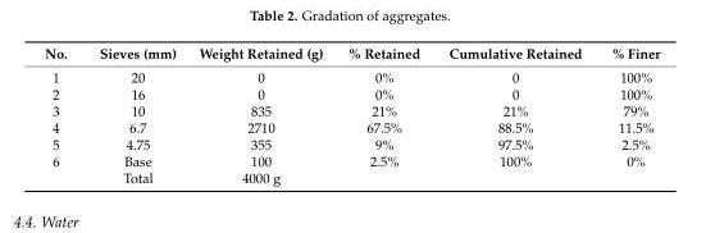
<table><thead><tr><td>No.</td><td>Sieves (mm)</td><td>Weight Retained (g)</td><td>% Retained</td><td>Cumulative Retained</td><td>% Finer</td></tr></thead><tbody><tr><td>1</td><td>20</td><td>0</td><td>0%</td><td>0</td><td>100%</td></tr><tr><td>2</td><td>16</td><td>0</td><td>0%</td><td>0</td><td>100%</td></tr><tr><td>3</td><td>10</td><td>835</td><td>21%</td><td>21%</td><td>79%</td></tr><tr><td>4</td><td>6.7</td><td>2710</td><td>67.5%</td><td>88.5%</td><td>11.5%</td></tr><tr><td>5</td><td>4.75</td><td>355</td><td>9%</td><td>97.5%</td><td>2.5%</td></tr><tr><td rowspan="2">6</td><td>Base</td><td>100</td><td>2.5%</td><td>100%</td><td>0%</td></tr><tr><td>Total</td><td>4000 g</td><td></td><td></td><td></td></tr></tbody></table>